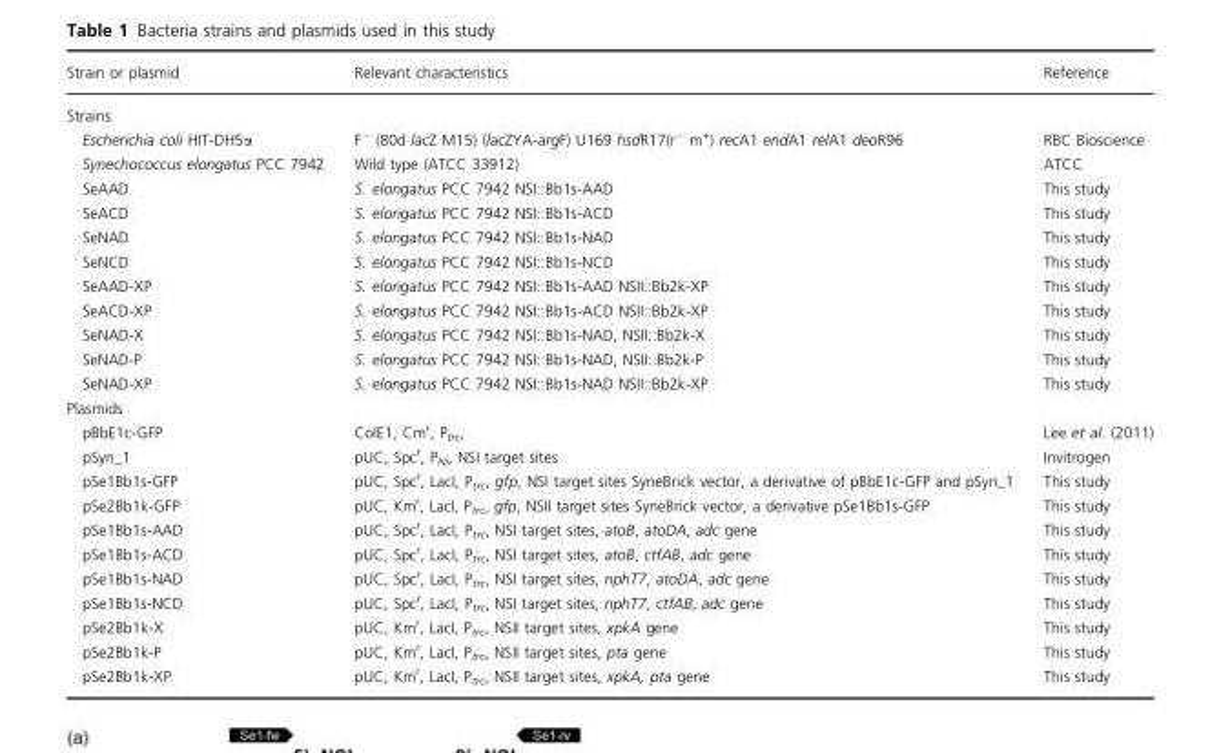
<table><thead><tr><td>Strain or plasmid</td><td>Relevant characteristics</td><td>Reference</td></tr></thead><tbody><tr><td colspan="3">Strains</td></tr><tr><td>Escherichia coli HIT-DH5α</td><td>F<sup>−</sup> (80d lacZ M15) (lacZYA-argF) U169 hsdR17(r<sup>−</sup> m<sup>+</sup>) recA1 endA1 relA1 deoR96</td><td>RBC Bioscience</td></tr><tr><td>Synechococcus elongatus PCC 7942</td><td>Wild type (ATCC 33912)</td><td>ATCC</td></tr><tr><td>SeAAD</td><td>S. elongatus PCC 7942 NSI::Bb1s-AAD</td><td>This study</td></tr><tr><td>SeACD</td><td>S. elongatus PCC 7942 NSI::Bb1s-ACD</td><td>This study</td></tr><tr><td>SeNAD</td><td>S. elongatus PCC 7942 NSI::Bb1s-NAD</td><td>This study</td></tr><tr><td>SeNCD</td><td>S. elongatus PCC 7942 NSI::Bb1s-NCD</td><td>This study</td></tr><tr><td>SeAAD-XP</td><td>S. elongatus PCC 7942 NSI::Bb1s-AAD NSII::Bb2k-XP</td><td>This study</td></tr><tr><td>SeACD-XP</td><td>S. elongatus PCC 7942 NSI::Bb1s-ACD NSII::Bb2k-XP</td><td>This study</td></tr><tr><td>SeNAD-X</td><td>S. elongatus PCC 7942 NSI::Bb1s-NAD, NSII::Bb2k-X</td><td>This study</td></tr><tr><td>SeNAD-P</td><td>S. elongatus PCC 7942 NSI::Bb1s-NAD, NSII::Bb2k-P</td><td>This study</td></tr><tr><td>SeNAD-XP</td><td>S. elongatus PCC 7942 NSI::Bb1s-NAD NSII::Bb2k-XP</td><td>This study</td></tr><tr><td colspan="3">Plasmids</td></tr><tr><td>pBbE1c-GFP</td><td>ColE1, Cm<sup>r</sup>, P<sub>trc</sub>,</td><td>Lee et al. (2011)</td></tr><tr><td>pSyn_1</td><td>pUC, Spc<sup>r</sup>, P<sub>Ni</sub>, NSI target sites</td><td>Invitrogen</td></tr><tr><td>pSe1Bb1s-GFP</td><td>pUC, Spc<sup>r</sup>, LacI, P<sub>trc</sub>, gfp, NSI target sites SyneBrick vector, a derivative of pBbE1c-GFP and pSyn_1</td><td>This study</td></tr><tr><td>pSe2Bb1k-GFP</td><td>pUC, Km<sup>r</sup>, LacI, P<sub>trc</sub>, gfp, NSII target sites SyneBrick vector, a derivative pSe1Bb1s-GFP</td><td>This study</td></tr><tr><td>pSe1Bb1s-AAD</td><td>pUC, Spc<sup>r</sup>, LacI, P<sub>trc</sub>, NSI target sites, atoB, atoDA, adc gene</td><td>This study</td></tr><tr><td>pSe1Bb1s-ACD</td><td>pUC, Spc<sup>r</sup>, LacI, P<sub>trc</sub>, NSI target sites, atoB, ctfAB, adc gene</td><td>This study</td></tr><tr><td>pSe1Bb1s-NAD</td><td>pUC, Spc<sup>r</sup>, LacI, P<sub>trc</sub>, NSI target sites, nphT7, atoDA, adc gene</td><td>This study</td></tr><tr><td>pSe1Bb1s-NCD</td><td>pUC, Spc<sup>r</sup>, LacI, P<sub>trc</sub>, NSI target sites, nphT7, ctfAB, adc gene</td><td>This study</td></tr><tr><td>pSe2Bb1k-X</td><td>pUC, Km<sup>r</sup>, LacI, P<sub>trc</sub>, NSII target sites, xpkA gene</td><td>This study</td></tr><tr><td>pSe2Bb1k-P</td><td>pUC, Km<sup>r</sup>, LacI, P<sub>trc</sub>, NSII target sites, pta gene</td><td>This study</td></tr><tr><td>pSe2Bb1k-XP</td><td>pUC, Km<sup>r</sup>, LacI, P<sub>trc</sub>, NSII target sites, xpkA, pta gene</td><td>This study</td></tr></tbody></table>